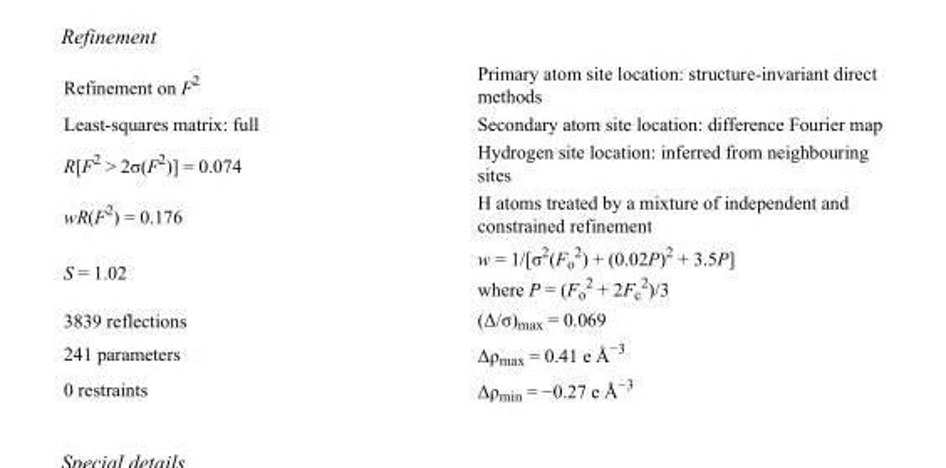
<table><tbody><tr><td>Refinement on F<sup>2</sup></td><td>Primary atom site location: structure-invariant direct methods</td></tr><tr><td>Least-squares matrix: full</td><td>Secondary atom site location: difference Fourier map</td></tr><tr><td>R[F<sup>2</sup> &gt; 2σ(F<sup>2</sup>)] = 0.074</td><td>Hydrogen site location: inferred from neighbouring sites</td></tr><tr><td>wR(F<sup>2</sup>) = 0.176</td><td>H atoms treated by a mixture of independent and constrained refinement</td></tr><tr><td>S = 1.02</td><td>w = 1/[σ<sup>2</sup>(F<sub>o</sub> <sup>2</sup>) + (0.02P)<sup>2</sup> + 3.5P] where P = (F<sub>o</sub> <sup>2</sup> + 2F<sub>c</sub> <sup>2</sup>)/3</td></tr><tr><td>3839 reflections</td><td>(Δ/σ)<sub>max</sub> = 0.069</td></tr><tr><td>241 parameters</td><td>Δρ<sub>max</sub> = 0.41 e Å<sup>−3</sup></td></tr><tr><td>0 restraints</td><td>Δρ<sub>min</sub> = −0.27 e Å<sup>−3</sup></td></tr></tbody></table>